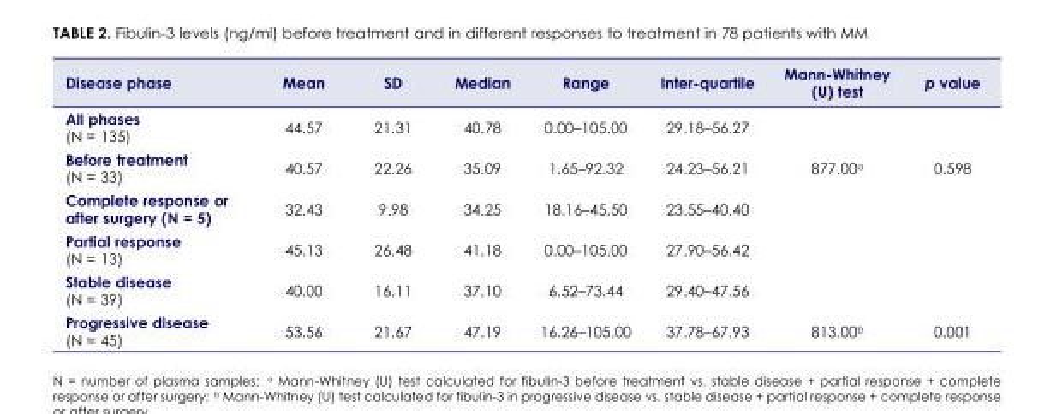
<table><thead><tr><td>Disease phase</td><td>Mean</td><td>SD</td><td>Median</td><td>Range</td><td>Inter-quartile</td><td>Mann-Whitney (U) test</td><td>p value</td></tr></thead><tbody><tr><td>All phases (N = 135)</td><td>44.57</td><td>21.31</td><td>40.78</td><td>0.00–105.00</td><td>29.18–56.27</td><td></td><td></td></tr><tr><td>Before treatment (N = 33)</td><td>40.57</td><td>22.26</td><td>35.09</td><td>1.65–92.32</td><td>24.23–56.21</td><td>877.00<sup>a</sup></td><td>0.598</td></tr><tr><td>Complete response or after surgery (N = 5)</td><td>32.43</td><td>9.98</td><td>34.25</td><td>18.16–45.50</td><td>23.55–40.40</td><td></td><td></td></tr><tr><td>Partial response (N = 13)</td><td>45.13</td><td>26.48</td><td>41.18</td><td>0.00–105.00</td><td>27.90–56.42</td><td></td><td></td></tr><tr><td>Stable disease (N = 39)</td><td>40.00</td><td>16.11</td><td>37.10</td><td>6.52–73.44</td><td>29.40–47.56</td><td></td><td></td></tr><tr><td>Progressive disease (N = 45)</td><td>53.56</td><td>21.67</td><td>47.19</td><td>16.26–105.00</td><td>37.78–67.93</td><td>813.00<sup>b</sup></td><td>0.001</td></tr></tbody></table>